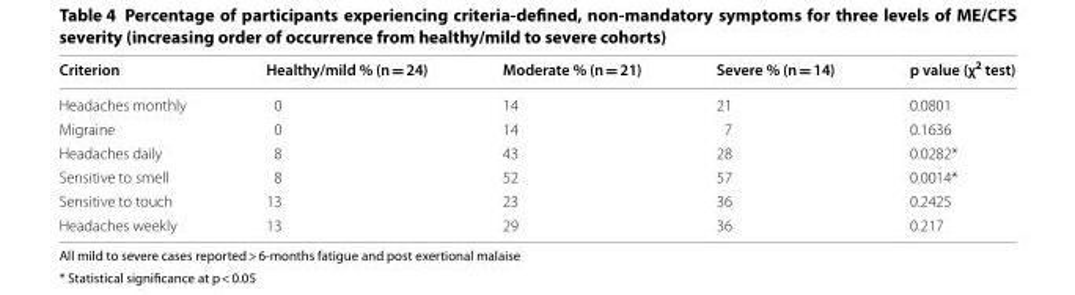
<table><thead><tr><td>Criterion</td><td>Healthy/mild % (n = 24)</td><td>Moderate % (n = 21)</td><td>Severe % (n = 14)</td><td>p value (χ<sup>2</sup> test)</td></tr></thead><tbody><tr><td>Headaches monthly</td><td>0</td><td>14</td><td>21</td><td>0.0801</td></tr><tr><td>Migraine</td><td>0</td><td>14</td><td>7</td><td>0.1636</td></tr><tr><td>Headaches daily</td><td>8</td><td>43</td><td>28</td><td>0.0282*</td></tr><tr><td>Sensitive to smell</td><td>8</td><td>52</td><td>57</td><td>0.0014*</td></tr><tr><td>Sensitive to touch</td><td>13</td><td>23</td><td>36</td><td>0.2425</td></tr><tr><td>Headaches weekly</td><td>13</td><td>29</td><td>36</td><td>0.217</td></tr></tbody></table>